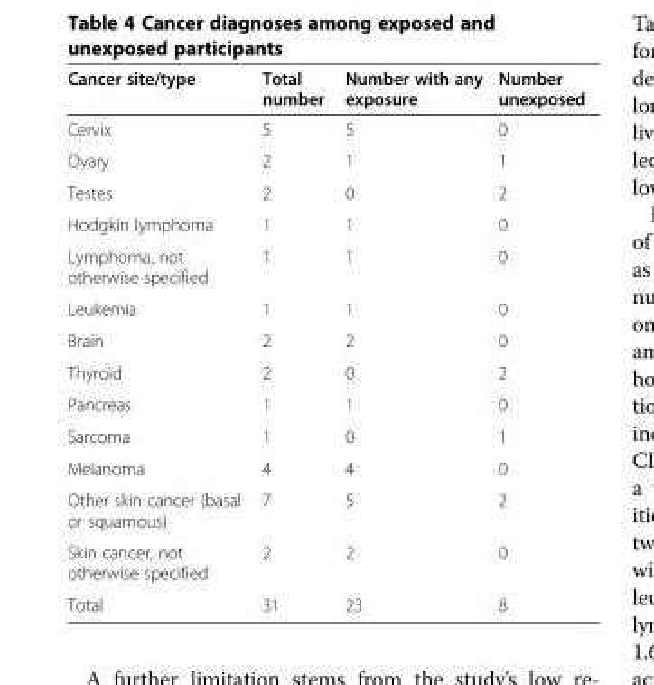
<table><thead><tr><td>Cancer site/type</td><td>Total number</td><td>Number with any exposure</td><td>Number unexposed</td></tr></thead><tbody><tr><td>Cervix</td><td>5</td><td>5</td><td>0</td></tr><tr><td>Ovary</td><td>2</td><td>1</td><td>1</td></tr><tr><td>Testes</td><td>2</td><td>0</td><td>2</td></tr><tr><td>Hodgkin lymphoma</td><td>1</td><td>1</td><td>0</td></tr><tr><td>Lymphoma, not otherwise specified</td><td>1</td><td>1</td><td>0</td></tr><tr><td>Leukemia</td><td>1</td><td>1</td><td>0</td></tr><tr><td>Brain</td><td>2</td><td>2</td><td>0</td></tr><tr><td>Thyroid</td><td>2</td><td>0</td><td>2</td></tr><tr><td>Pancreas</td><td>1</td><td>1</td><td>0</td></tr><tr><td>Sarcoma</td><td>1</td><td>0</td><td>1</td></tr><tr><td>Melanoma</td><td>4</td><td>4</td><td>0</td></tr><tr><td>Other skin cancer (basal or squamous)</td><td>7</td><td>5</td><td>2</td></tr><tr><td>Skin cancer, not otherwise specified</td><td>2</td><td>2</td><td>0</td></tr><tr><td>Total</td><td>31</td><td>23</td><td>8</td></tr></tbody></table>